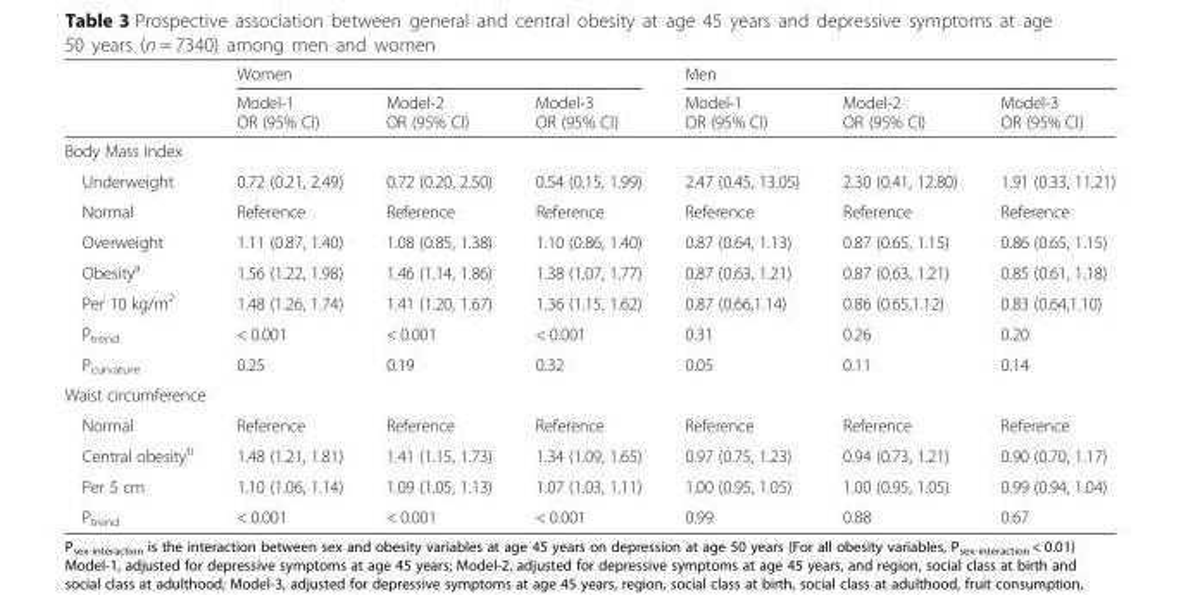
<table><thead><tr><td rowspan="2"></td><td colspan="3">Women</td><td colspan="3">Men</td></tr><tr><td>Model-1 OR (95% CI)</td><td>Model-2 OR (95% CI)</td><td>Model-3 OR (95% CI)</td><td>Model-1 OR (95% CI)</td><td>Model-2 OR (95% CI)</td><td>Model-3 OR (95% CI)</td></tr></thead><tbody><tr><td colspan="7">Body Mass Index</td></tr><tr><td>Underweight</td><td>0.72 (0.21, 2.49)</td><td>0.72 (0.20, 2.50)</td><td>0.54 (0.15, 1.99)</td><td>2.47 (0.45, 13.05)</td><td>2.30 (0.41, 12.80)</td><td>1.91 (0.33, 11.21)</td></tr><tr><td>Normal</td><td>Reference</td><td>Reference</td><td>Reference</td><td>Reference</td><td>Reference</td><td>Reference</td></tr><tr><td>Overweight</td><td>1.11 (0.87, 1.40)</td><td>1.08 (0.85, 1.38)</td><td>1.10 (0.86, 1.40)</td><td>0.87 (0.64, 1.13)</td><td>0.87 (0.65, 1.15)</td><td>0.86 (0.65, 1.15)</td></tr><tr><td>Obesity<sup>a</sup></td><td>1.56 (1.22, 1.98)</td><td>1.46 (1.14, 1.86)</td><td>1.38 (1.07, 1.77)</td><td>0.87 (0.63, 1.21)</td><td>0.87 (0.63, 1.21)</td><td>0.85 (0.61, 1.18)</td></tr><tr><td>Per 10 kg/m<sup>2</sup></td><td>1.48 (1.26, 1.74)</td><td>1.41 (1.20, 1.67)</td><td>1.36 (1.15, 1.62)</td><td>0.87 (0.66,1.14)</td><td>0.86 (0.65,1.12)</td><td>0.83 (0.64,1.10)</td></tr><tr><td>P<sub>trend</sub></td><td>&lt; 0.001</td><td>&lt; 0.001</td><td>&lt; 0.001</td><td>0.31</td><td>0.26</td><td>0.20</td></tr><tr><td>P<sub>curvature</sub></td><td>0.25</td><td>0.19</td><td>0.32</td><td>0.05</td><td>0.11</td><td>0.14</td></tr><tr><td colspan="7">Waist circumference</td></tr><tr><td>Normal</td><td>Reference</td><td>Reference</td><td>Reference</td><td>Reference</td><td>Reference</td><td>Reference</td></tr><tr><td>Central obesity<sup>b</sup></td><td>1.48 (1.21, 1.81)</td><td>1.41 (1.15, 1.73)</td><td>1.34 (1.09, 1.65)</td><td>0.97 (0.75, 1.23)</td><td>0.94 (0.73, 1.21)</td><td>0.90 (0.70, 1.17)</td></tr><tr><td>Per 5 cm</td><td>1.10 (1.06, 1.14)</td><td>1.09 (1.05, 1.13)</td><td>1.07 (1.03, 1.11)</td><td>1.00 (0.95, 1.05)</td><td>1.00 (0.95, 1.05)</td><td>0.99 (0.94, 1.04)</td></tr><tr><td>P<sub>trend</sub></td><td>&lt; 0.001</td><td>&lt; 0.001</td><td>&lt; 0.001</td><td>0.99</td><td>0.88</td><td>0.67</td></tr></tbody></table>